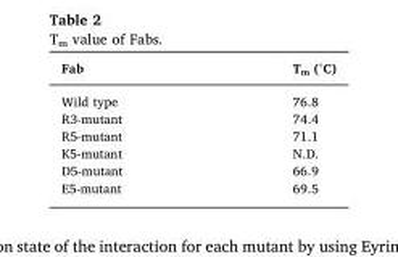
<table><thead><tr><td>Fab</td><td>T<sub>m</sub> (°C)</td></tr></thead><tbody><tr><td>Wild type</td><td>76.8</td></tr><tr><td>R3-mutant</td><td>74.4</td></tr><tr><td>R5-mutant</td><td>71.1</td></tr><tr><td>K5-mutant</td><td>N.D.</td></tr><tr><td>D5-mutant</td><td>66.9</td></tr><tr><td>E5-mutant</td><td>69.5</td></tr></tbody></table>